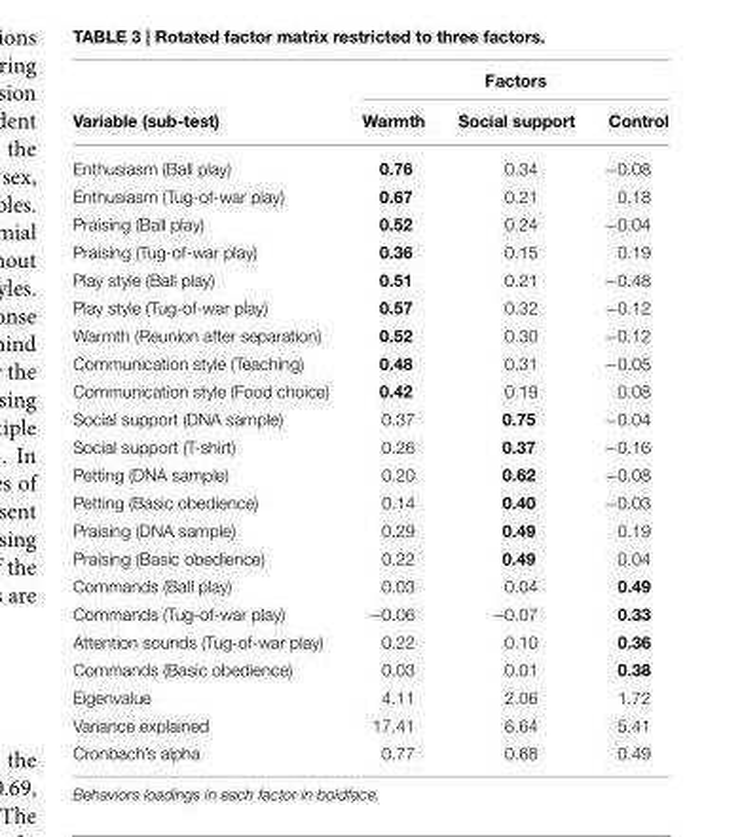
<table><thead><tr><td rowspan="2">Variable (sub-test)</td><td colspan="3">Factors</td></tr><tr><td>Warmth</td><td>Social support</td><td>Control</td></tr></thead><tbody><tr><td>Enthusiasm (Ball play)</td><td>0.76</td><td>0.34</td><td>−0.08</td></tr><tr><td>Enthusiasm (Tug-of-war play)</td><td>0.67</td><td>0.21</td><td>0.18</td></tr><tr><td>Praising (Ball play)</td><td>0.52</td><td>0.24</td><td>−0.04</td></tr><tr><td>Praising (Tug-of-war play)</td><td>0.36</td><td>0.15</td><td>0.19</td></tr><tr><td>Play style (Ball play)</td><td>0.51</td><td>0.21</td><td>−0.48</td></tr><tr><td>Play style (Tug-of-war play)</td><td>0.57</td><td>0.32</td><td>−0.12</td></tr><tr><td>Warmth (Reunion after separation)</td><td>0.52</td><td>0.30</td><td>−0.12</td></tr><tr><td>Communication style (Teaching)</td><td>0.48</td><td>0.31</td><td>−0.05</td></tr><tr><td>Communication style (Food choice)</td><td>0.42</td><td>0.19</td><td>0.08</td></tr><tr><td>Social support (DNA sample)</td><td>0.37</td><td>0.75</td><td>−0.04</td></tr><tr><td>Social support (T-shirt)</td><td>0.26</td><td>0.37</td><td>−0.16</td></tr><tr><td>Petting (DNA sample)</td><td>0.20</td><td>0.62</td><td>−0.08</td></tr><tr><td>Petting (Basic obedience)</td><td>0.14</td><td>0.40</td><td>−0.03</td></tr><tr><td>Praising (DNA sample)</td><td>0.29</td><td>0.49</td><td>0.19</td></tr><tr><td>Praising (Basic obedience)</td><td>0.22</td><td>0.49</td><td>0.04</td></tr><tr><td>Commands (Ball play)</td><td>0.03</td><td>0.04</td><td>0.49</td></tr><tr><td>Commands (Tug-of-war play)</td><td>−0.06</td><td>−0.07</td><td>0.33</td></tr><tr><td>Attention sounds (Tug-of-war play)</td><td>0.22</td><td>0.10</td><td>0.36</td></tr><tr><td>Commands (Basic obedience)</td><td>0.03</td><td>0.01</td><td>0.38</td></tr><tr><td>Eigenvalue</td><td>4.11</td><td>2.06</td><td>1.72</td></tr><tr><td>Variance explained</td><td>17.41</td><td>6.64</td><td>5.41</td></tr><tr><td>Cronbach’s alpha</td><td>0.77</td><td>0.68</td><td>0.49</td></tr></tbody></table>